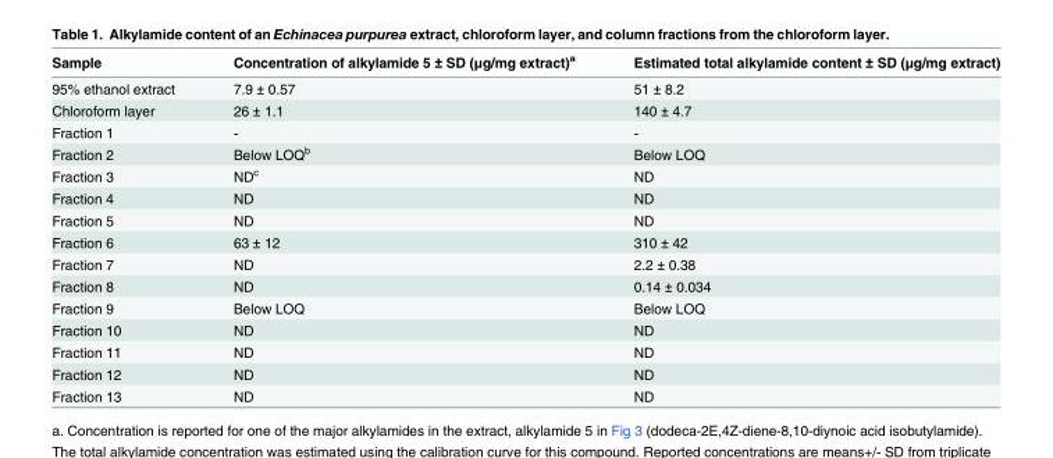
<table><thead><tr><td>Sample</td><td>Concentration of alkylamide 5 ± SD (μg/mg extract)<sup>a</sup></td><td>Estimated total alkylamide content ± SD (μg/mg extract)</td></tr></thead><tbody><tr><td>95% ethanol extract</td><td>7.9 ± 0.57</td><td>51 ± 8.2</td></tr><tr><td>Chloroform layer</td><td>26 ± 1.1</td><td>140 ± 4.7</td></tr><tr><td>Fraction 1</td><td>-</td><td>-</td></tr><tr><td>Fraction 2</td><td>Below LOQ<sup>b</sup></td><td>Below LOQ</td></tr><tr><td>Fraction 3</td><td>ND<sup>c</sup></td><td>ND</td></tr><tr><td>Fraction 4</td><td>ND</td><td>ND</td></tr><tr><td>Fraction 5</td><td>ND</td><td>ND</td></tr><tr><td>Fraction 6</td><td>63 ± 12</td><td>310 ± 42</td></tr><tr><td>Fraction 7</td><td>ND</td><td>2.2 ± 0.38</td></tr><tr><td>Fraction 8</td><td>ND</td><td>0.14 ± 0.034</td></tr><tr><td>Fraction 9</td><td>Below LOQ</td><td>Below LOQ</td></tr><tr><td>Fraction 10</td><td>ND</td><td>ND</td></tr><tr><td>Fraction 11</td><td>ND</td><td>ND</td></tr><tr><td>Fraction 12</td><td>ND</td><td>ND</td></tr><tr><td>Fraction 13</td><td>ND</td><td>ND</td></tr></tbody></table>